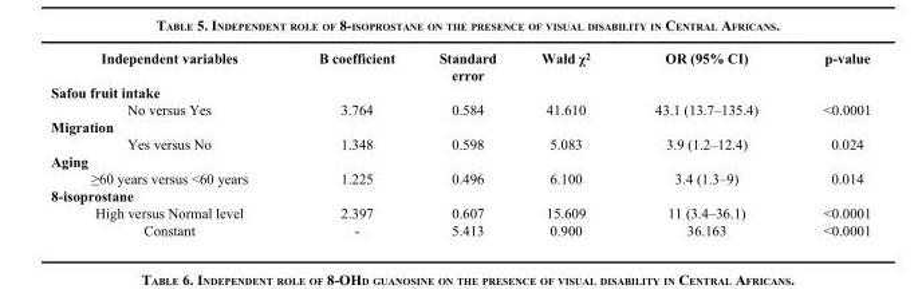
<table><thead><tr><td>Independent variables</td><td>B coefficient</td><td>Standard error</td><td>Wald χ<sup>2</sup></td><td>OR (95% CI)</td><td>p-value</td></tr></thead><tbody><tr><td colspan="6">Safou fruit intake</td></tr><tr><td>No versus Yes</td><td>3.764</td><td>0.584</td><td>41.610</td><td>43.1 (13.7–135.4)</td><td>&lt;0.0001</td></tr><tr><td colspan="6">Migration</td></tr><tr><td>Yes versus No</td><td>1.348</td><td>0.598</td><td>5.083</td><td>3.9 (1.2–12.4)</td><td>0.024</td></tr><tr><td colspan="6">Aging</td></tr><tr><td>≥60 years versus &lt;60 years</td><td>1.225</td><td>0.496</td><td>6.100</td><td>3.4 (1.3–9)</td><td>0.014</td></tr><tr><td colspan="6">8-isoprostane</td></tr><tr><td>High versus Normal level</td><td>2.397</td><td>0.607</td><td>15.609</td><td>11 (3.4–36.1)</td><td>&lt;0.0001</td></tr><tr><td>Constant</td><td>-</td><td>5.413</td><td>0.900</td><td>36.163</td><td>&lt;0.0001</td></tr></tbody></table>